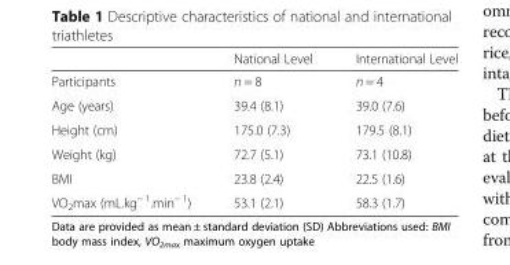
<table><thead><tr><td></td><td>National Level</td><td>International Level</td></tr></thead><tbody><tr><td>Participants</td><td>n = 8</td><td>n = 4</td></tr><tr><td>Age (years)</td><td>39.4 (8.1)</td><td>39.0 (7.6)</td></tr><tr><td>Height (cm)</td><td>175.0 (7.3)</td><td>179.5 (8.1)</td></tr><tr><td>Weight (kg)</td><td>72.7 (5.1)</td><td>73.1 (10.8)</td></tr><tr><td>BMI</td><td>23.8 (2.4)</td><td>22.5 (1.6)</td></tr><tr><td>VO<sub>2</sub>max (mL.kg<sup>− 1</sup>.min<sup>− 1</sup>)</td><td>53.1 (2.1)</td><td>58.3 (1.7)</td></tr></tbody></table>